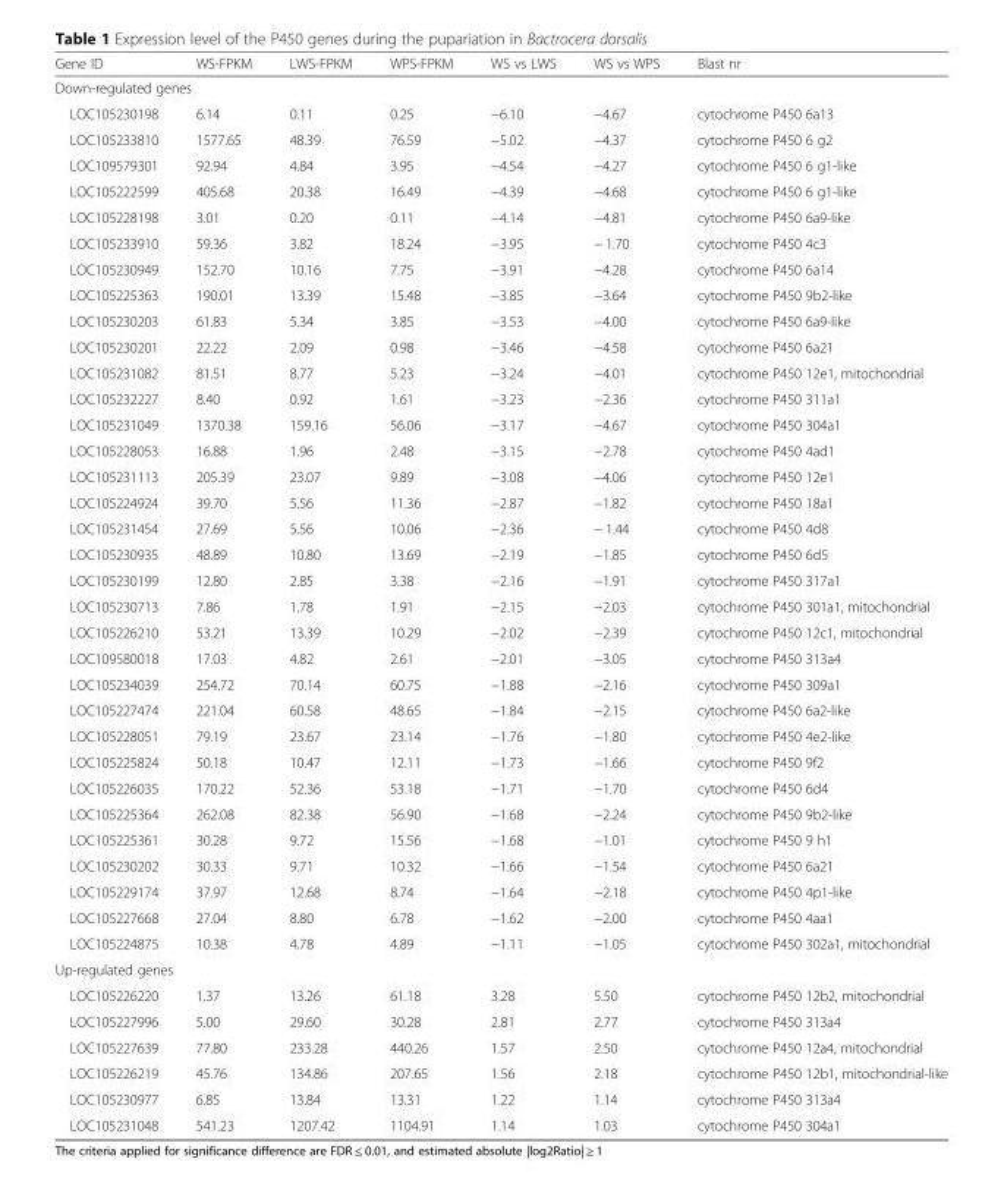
<table><thead><tr><td>Gene ID</td><td>WS-FPKM</td><td>LWS-FPKM</td><td>WPS-FPKM</td><td>WS vs LWS</td><td>WS vs WPS</td><td>Blast nr</td></tr></thead><tbody><tr><td colspan="7">Down-regulated genes</td></tr><tr><td>LOC105230198</td><td>6.14</td><td>0.11</td><td>0.25</td><td>−6.10</td><td>−4.67</td><td>cytochrome P450 6a13</td></tr><tr><td>LOC105233810</td><td>1577.65</td><td>48.39</td><td>76.59</td><td>−5.02</td><td>−4.37</td><td>cytochrome P450 6 g2</td></tr><tr><td>LOC109579301</td><td>92.94</td><td>4.84</td><td>3.95</td><td>−4.54</td><td>−4.27</td><td>cytochrome P450 6 g1-like</td></tr><tr><td>LOC105222599</td><td>405.68</td><td>20.38</td><td>16.49</td><td>−4.39</td><td>−4.68</td><td>cytochrome P450 6 g1-like</td></tr><tr><td>LOC105228198</td><td>3.01</td><td>0.20</td><td>0.11</td><td>−4.14</td><td>−4.81</td><td>cytochrome P450 6a9-like</td></tr><tr><td>LOC105233910</td><td>59.36</td><td>3.82</td><td>18.24</td><td>−3.95</td><td>− 1.70</td><td>cytochrome P450 4c3</td></tr><tr><td>LOC105230949</td><td>152.70</td><td>10.16</td><td>7.75</td><td>−3.91</td><td>−4.28</td><td>cytochrome P450 6a14</td></tr><tr><td>LOC105225363</td><td>190.01</td><td>13.39</td><td>15.48</td><td>−3.85</td><td>−3.64</td><td>cytochrome P450 9b2-like</td></tr><tr><td>LOC105230203</td><td>61.83</td><td>5.34</td><td>3.85</td><td>−3.53</td><td>−4.00</td><td>cytochrome P450 6a9-like</td></tr><tr><td>LOC105230201</td><td>22.22</td><td>2.09</td><td>0.98</td><td>−3.46</td><td>−4.58</td><td>cytochrome P450 6a21</td></tr><tr><td>LOC105231082</td><td>81.51</td><td>8.77</td><td>5.23</td><td>−3.24</td><td>−4.01</td><td>cytochrome P450 12e1, mitochondrial</td></tr><tr><td>LOC105232227</td><td>8.40</td><td>0.92</td><td>1.61</td><td>−3.23</td><td>−2.36</td><td>cytochrome P450 311a1</td></tr><tr><td>LOC105231049</td><td>1370.38</td><td>159.16</td><td>56.06</td><td>−3.17</td><td>−4.67</td><td>cytochrome P450 304a1</td></tr><tr><td>LOC105228053</td><td>16.88</td><td>1.96</td><td>2.48</td><td>−3.15</td><td>−2.78</td><td>cytochrome P450 4ad1</td></tr><tr><td>LOC105231113</td><td>205.39</td><td>23.07</td><td>9.89</td><td>−3.08</td><td>−4.06</td><td>cytochrome P450 12e1</td></tr><tr><td>LOC105224924</td><td>39.70</td><td>5.56</td><td>11.36</td><td>−2.87</td><td>−1.82</td><td>cytochrome P450 18a1</td></tr><tr><td>LOC105231454</td><td>27.69</td><td>5.56</td><td>10.06</td><td>−2.36</td><td>− 1.44</td><td>cytochrome P450 4d8</td></tr><tr><td>LOC105230935</td><td>48.89</td><td>10.80</td><td>13.69</td><td>−2.19</td><td>−1.85</td><td>cytochrome P450 6d5</td></tr><tr><td>LOC105230199</td><td>12.80</td><td>2.85</td><td>3.38</td><td>−2.16</td><td>−1.91</td><td>cytochrome P450 317a1</td></tr><tr><td>LOC105230713</td><td>7.86</td><td>1.78</td><td>1.91</td><td>−2.15</td><td>−2.03</td><td>cytochrome P450 301a1, mitochondrial</td></tr><tr><td>LOC105226210</td><td>53.21</td><td>13.39</td><td>10.29</td><td>−2.02</td><td>−2.39</td><td>cytochrome P450 12c1, mitochondrial</td></tr><tr><td>LOC109580018</td><td>17.03</td><td>4.82</td><td>2.61</td><td>−2.01</td><td>−3.05</td><td>cytochrome P450 313a4</td></tr><tr><td>LOC105234039</td><td>254.72</td><td>70.14</td><td>60.75</td><td>−1.88</td><td>−2.16</td><td>cytochrome P450 309a1</td></tr><tr><td>LOC105227474</td><td>221.04</td><td>60.58</td><td>48.65</td><td>−1.84</td><td>−2.15</td><td>cytochrome P450 6a2-like</td></tr><tr><td>LOC105228051</td><td>79.19</td><td>23.67</td><td>23.14</td><td>−1.76</td><td>−1.80</td><td>cytochrome P450 4e2-like</td></tr><tr><td>LOC105225824</td><td>50.18</td><td>10.47</td><td>12.11</td><td>−1.73</td><td>−1.66</td><td>cytochrome P450 9f2</td></tr><tr><td>LOC105226035</td><td>170.22</td><td>52.36</td><td>53.18</td><td>−1.71</td><td>−1.70</td><td>cytochrome P450 6d4</td></tr><tr><td>LOC105225364</td><td>262.08</td><td>82.38</td><td>56.90</td><td>−1.68</td><td>−2.24</td><td>cytochrome P450 9b2-like</td></tr><tr><td>LOC105225361</td><td>30.28</td><td>9.72</td><td>15.56</td><td>−1.68</td><td>−1.01</td><td>cytochrome P450 9 h1</td></tr><tr><td>LOC105230202</td><td>30.33</td><td>9.71</td><td>10.32</td><td>−1.66</td><td>−1.54</td><td>cytochrome P450 6a21</td></tr><tr><td>LOC105229174</td><td>37.97</td><td>12.68</td><td>8.74</td><td>−1.64</td><td>−2.18</td><td>cytochrome P450 4p1-like</td></tr><tr><td>LOC105227668</td><td>27.04</td><td>8.80</td><td>6.78</td><td>−1.62</td><td>−2.00</td><td>cytochrome P450 4aa1</td></tr><tr><td>LOC105224875</td><td>10.38</td><td>4.78</td><td>4.89</td><td>−1.11</td><td>−1.05</td><td>cytochrome P450 302a1, mitochondrial</td></tr><tr><td colspan="7">Up-regulated genes</td></tr><tr><td>LOC105226220</td><td>1.37</td><td>13.26</td><td>61.18</td><td>3.28</td><td>5.50</td><td>cytochrome P450 12b2, mitochondrial</td></tr><tr><td>LOC105227996</td><td>5.00</td><td>29.60</td><td>30.28</td><td>2.81</td><td>2.77</td><td>cytochrome P450 313a4</td></tr><tr><td>LOC105227639</td><td>77.80</td><td>233.28</td><td>440.26</td><td>1.57</td><td>2.50</td><td>cytochrome P450 12a4, mitochondrial</td></tr><tr><td>LOC105226219</td><td>45.76</td><td>134.86</td><td>207.65</td><td>1.56</td><td>2.18</td><td>cytochrome P450 12b1, mitochondrial-like</td></tr><tr><td>LOC105230977</td><td>6.85</td><td>13.84</td><td>13.31</td><td>1.22</td><td>1.14</td><td>cytochrome P450 313a4</td></tr><tr><td>LOC105231048</td><td>541.23</td><td>1207.42</td><td>1104.91</td><td>1.14</td><td>1.03</td><td>cytochrome P450 304a1</td></tr></tbody></table>